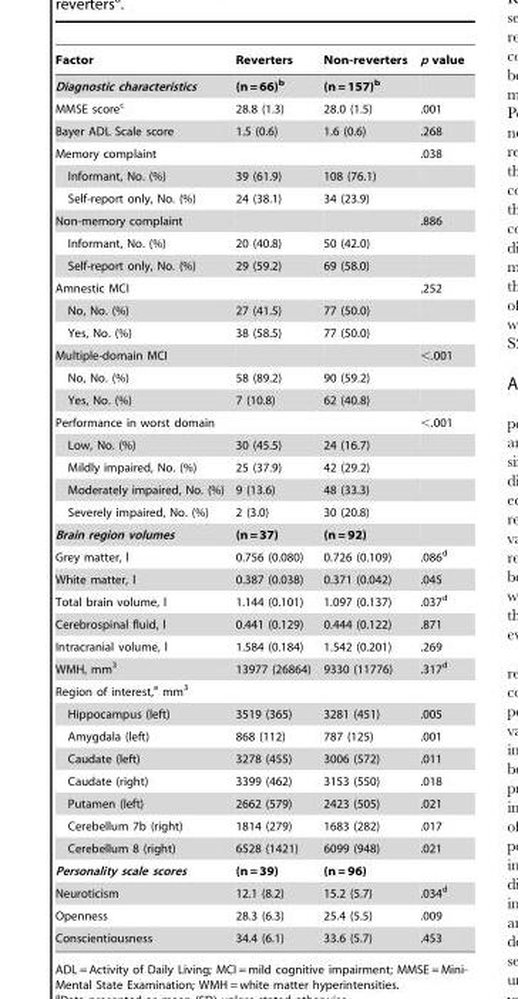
<table><thead><tr><td>Factor</td><td>Reverters</td><td>Non-reverters</td><td>p value</td></tr></thead><tbody><tr><td>Diagnostic characteristics</td><td>(n = 66)b</td><td>(n = 157)b</td><td></td></tr><tr><td>MMSE score<sup>c</sup></td><td>28.8 (1.3)</td><td>28.0 (1.5)</td><td>.001</td></tr><tr><td>Bayer ADL Scale score</td><td>1.5 (0.6)</td><td>1.6 (0.6)</td><td>.268</td></tr><tr><td>Memory complaint</td><td></td><td></td><td>.038</td></tr><tr><td>Informant, No. (%)</td><td>39 (61.9)</td><td>108 (76.1)</td><td></td></tr><tr><td>Self-report only, No. (%)</td><td>24 (38.1)</td><td>34 (23.9)</td><td></td></tr><tr><td>Non-memory complaint</td><td></td><td></td><td>.886</td></tr><tr><td>Informant, No. (%)</td><td>20 (40.8)</td><td>50 (42.0)</td><td></td></tr><tr><td>Self-report only, No. (%)</td><td>29 (59.2)</td><td>69 (58.0)</td><td></td></tr><tr><td>Amnestic MCI</td><td></td><td></td><td>.252</td></tr><tr><td>No, No. (%)</td><td>27 (41.5)</td><td>77 (50.0)</td><td></td></tr><tr><td>Yes, No. (%)</td><td>38 (58.5)</td><td>77 (50.0)</td><td></td></tr><tr><td>Multiple-domain MCI</td><td></td><td></td><td>&lt;.001</td></tr><tr><td>No, No. (%)</td><td>58 (89.2)</td><td>90 (59.2)</td><td></td></tr><tr><td>Yes, No. (%)</td><td>7 (10.8)</td><td>62 (40.8)</td><td></td></tr><tr><td>Performance in worst domain</td><td></td><td></td><td>&lt;.001</td></tr><tr><td>Low, No. (%)</td><td>30 (45.5)</td><td>24 (16.7)</td><td></td></tr><tr><td>Mildly impaired, No. (%)</td><td>25 (37.9)</td><td>42 (29.2)</td><td></td></tr><tr><td>Moderately impaired, No. (%)</td><td>9 (13.6)</td><td>48 (33.3)</td><td></td></tr><tr><td>Severely impaired, No. (%)</td><td>2 (3.0)</td><td>30 (20.8)</td><td></td></tr><tr><td>Brain region volumes</td><td>(n = 37)</td><td>(n = 92)</td><td></td></tr><tr><td>Grey matter, l</td><td>0.756 (0.080)</td><td>0.726 (0.109)</td><td>.086<sup>d</sup></td></tr><tr><td>White matter, l</td><td>0.387 (0.038)</td><td>0.371 (0.042)</td><td>.045</td></tr><tr><td>Total brain volume, l</td><td>1.144 (0.101)</td><td>1.097 (0.137)</td><td>.037<sup>d</sup></td></tr><tr><td>Cerebrospinal fluid, l</td><td>0.441 (0.129)</td><td>0.444 (0.122)</td><td>.871</td></tr><tr><td>Intracranial volume, l</td><td>1.584 (0.184)</td><td>1.542 (0.201)</td><td>.269</td></tr><tr><td>WMH, mm<sup>3</sup></td><td>13977 (26864)</td><td>9330 (11776)</td><td>.317<sup>d</sup></td></tr><tr><td colspan="4">Region of interest,<sup>e</sup> mm<sup>3</sup></td></tr><tr><td>Hippocampus (left)</td><td>3519 (365)</td><td>3281 (451)</td><td>.005</td></tr><tr><td>Amygdala (left)</td><td>868 (112)</td><td>787 (125)</td><td>.001</td></tr><tr><td>Caudate (left)</td><td>3278 (455)</td><td>3006 (572)</td><td>.011</td></tr><tr><td>Caudate (right)</td><td>3399 (462)</td><td>3153 (550)</td><td>.018</td></tr><tr><td>Putamen (left)</td><td>2662 (579)</td><td>2423 (505)</td><td>.021</td></tr><tr><td>Cerebellum 7b (right)</td><td>1814 (279)</td><td>1683 (282)</td><td>.017</td></tr><tr><td>Cerebellum 8 (right)</td><td>6528 (1421)</td><td>6099 (948)</td><td>.021</td></tr><tr><td>Personality scale scores</td><td>(n = 39)</td><td>(n = 96)</td><td></td></tr><tr><td>Neuroticism</td><td>12.1 (8.2)</td><td>15.2 (5.7)</td><td>.034<sup>d</sup></td></tr><tr><td>Openness</td><td>28.3 (6.3)</td><td>25.4 (5.5)</td><td>.009</td></tr><tr><td>Conscientiousness</td><td>34.4 (6.1)</td><td>33.6 (5.7)</td><td>.453</td></tr></tbody></table>